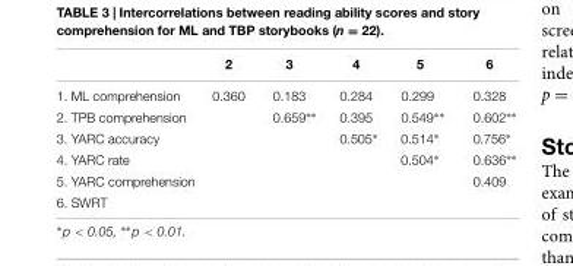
<table><thead><tr><td></td><td>2</td><td>3</td><td>4</td><td>5</td><td>6</td></tr></thead><tbody><tr><td>1. ML comprehension</td><td>0.360</td><td>0.183</td><td>0.284</td><td>0.299</td><td>0.328</td></tr><tr><td>2. TPB comprehension</td><td></td><td>0.659∗∗</td><td>0.395</td><td>0.549∗∗</td><td>0.602∗∗</td></tr><tr><td>3. YARC accuracy</td><td></td><td></td><td>0.505∗</td><td>0.514∗</td><td>0.756∗</td></tr><tr><td>4. YARC rate</td><td></td><td></td><td></td><td>0.504∗</td><td>0.636∗∗</td></tr><tr><td>5. YARC comprehension</td><td></td><td></td><td></td><td></td><td>0.409</td></tr><tr><td>6. SWRT</td><td></td><td></td><td></td><td></td><td></td></tr></tbody></table>